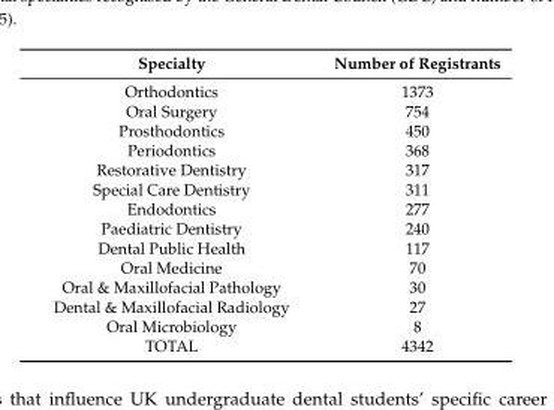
<table><thead><tr><td>Specialty</td><td>Number of Registrants</td></tr></thead><tbody><tr><td>Orthodontics</td><td>1373</td></tr><tr><td>Oral Surgery</td><td>754</td></tr><tr><td>Prosthodontics</td><td>450</td></tr><tr><td>Periodontics</td><td>368</td></tr><tr><td>Restorative Dentistry</td><td>317</td></tr><tr><td>Special Care Dentistry</td><td>311</td></tr><tr><td>Endodontics</td><td>277</td></tr><tr><td>Paediatric Dentistry</td><td>240</td></tr><tr><td>Dental Public Health</td><td>117</td></tr><tr><td>Oral Medicine</td><td>70</td></tr><tr><td>Oral &amp; Maxillofacial Pathology</td><td>30</td></tr><tr><td>Dental &amp; Maxillofacial Radiology</td><td>27</td></tr><tr><td>Oral Microbiology</td><td>8</td></tr><tr><td>TOTAL</td><td>4342</td></tr></tbody></table>